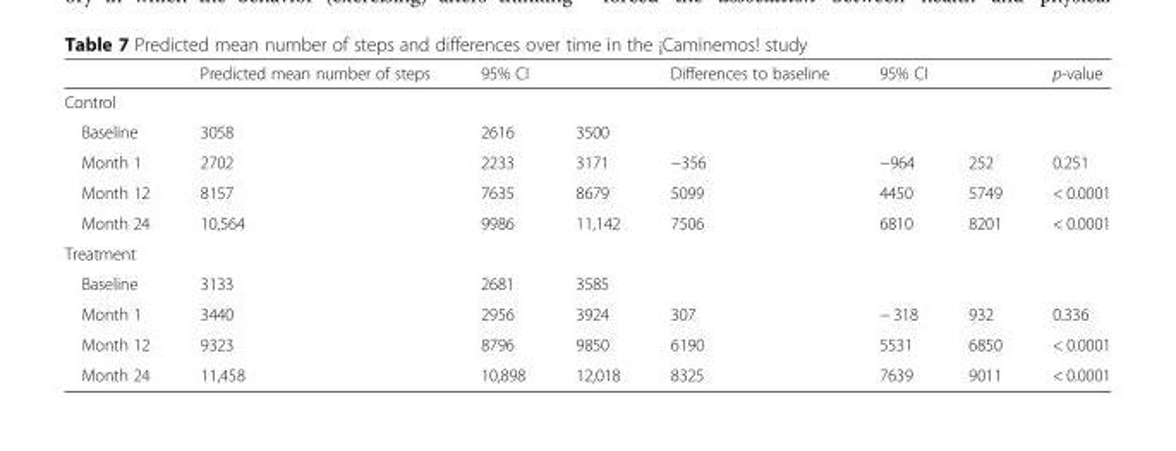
<table><thead><tr><td></td><td>Predicted mean number of steps</td><td colspan="2">95% CI</td><td>Differences to baseline</td><td colspan="2">95% CI</td><td>p-value</td></tr><tr><td colspan="8">Control</td></tr><tr><td>Baseline</td><td>3058</td><td>2616</td><td>3500</td><td></td><td></td><td></td><td></td></tr></thead><tbody><tr><td>Month 1</td><td>2702</td><td>2233</td><td>3171</td><td>−356</td><td>−964</td><td>252</td><td>0.251</td></tr><tr><td>Month 12</td><td>8157</td><td>7635</td><td>8679</td><td>5099</td><td>4450</td><td>5749</td><td>&lt; 0.0001</td></tr><tr><td>Month 24</td><td>10,564</td><td>9986</td><td>11,142</td><td>7506</td><td>6810</td><td>8201</td><td>&lt; 0.0001</td></tr><tr><td colspan="8">Treatment</td></tr><tr><td>Baseline</td><td>3133</td><td>2681</td><td>3585</td><td></td><td></td><td></td><td></td></tr><tr><td>Month 1</td><td>3440</td><td>2956</td><td>3924</td><td>307</td><td>− 318</td><td>932</td><td>0.336</td></tr><tr><td>Month 12</td><td>9323</td><td>8796</td><td>9850</td><td>6190</td><td>5531</td><td>6850</td><td>&lt; 0.0001</td></tr><tr><td>Month 24</td><td>11,458</td><td>10,898</td><td>12,018</td><td>8325</td><td>7639</td><td>9011</td><td>&lt; 0.0001</td></tr></tbody></table>